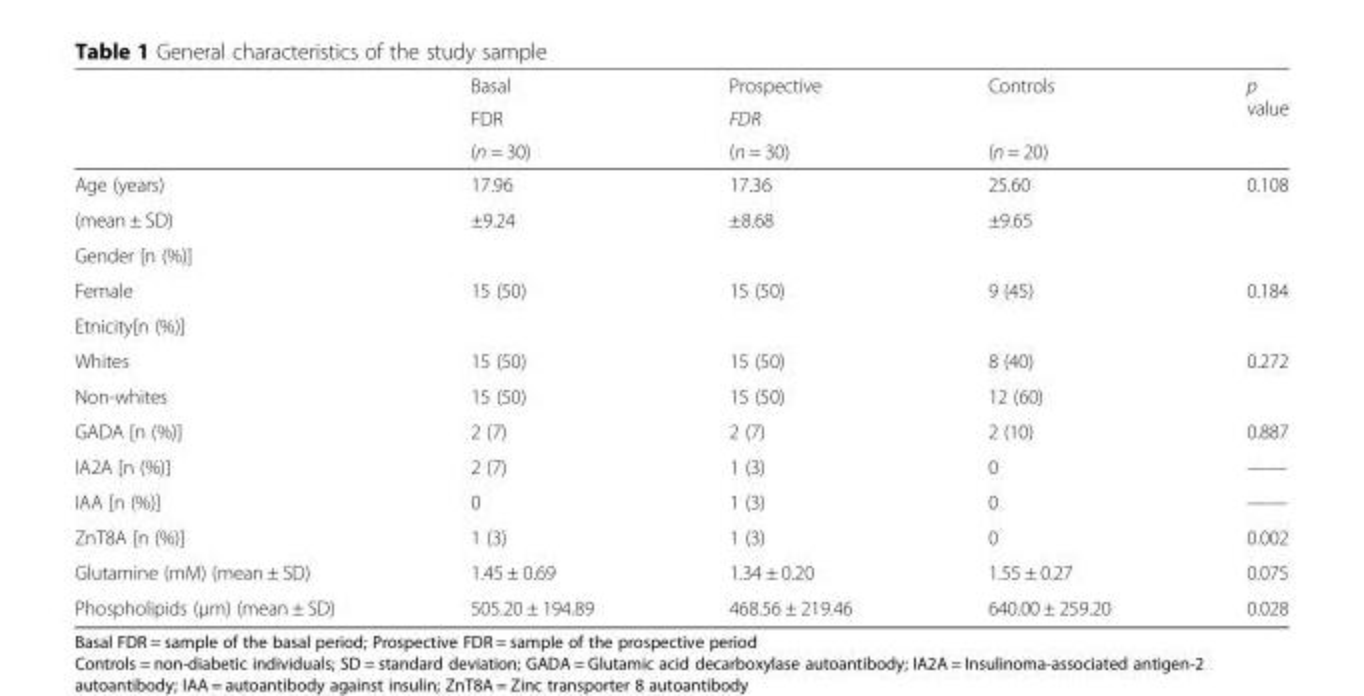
<table><thead><tr><td rowspan="3"></td><td rowspan="3">Basal FDR (n = 30)</td><td rowspan="3">Prospective FDR (n = 30)</td><td rowspan="3">Controls (n = 20)</td><td rowspan="3">p value</td></tr><tr></tr><tr></tr></thead><tbody><tr><td>Age (years)</td><td>17.96</td><td>17.36</td><td>25.60</td><td rowspan="2">0.108</td></tr><tr><td>(mean ± SD)</td><td>±9.24</td><td>±8.68</td><td>±9.65</td></tr><tr><td colspan="5">Gender [n (%)]</td></tr><tr><td>Female</td><td>15 (50)</td><td>15 (50)</td><td>9 (45)</td><td>0.184</td></tr><tr><td colspan="5">Etnicity[n (%)]</td></tr><tr><td>Whites</td><td>15 (50)</td><td>15 (50)</td><td>8 (40)</td><td>0.272</td></tr><tr><td>Non-whites</td><td>15 (50)</td><td>15 (50)</td><td>12 (60)</td><td></td></tr><tr><td>GADA [n (%)]</td><td>2 (7)</td><td>2 (7)</td><td>2 (10)</td><td>0.887</td></tr><tr><td>IA2A [n (%)]</td><td>2 (7)</td><td>1 (3)</td><td>0</td><td>——</td></tr><tr><td>IAA [n (%)]</td><td>0</td><td>1 (3)</td><td>0</td><td>——</td></tr><tr><td>ZnT8A [n (%)]</td><td>1 (3)</td><td>1 (3)</td><td>0</td><td>0.002</td></tr><tr><td>Glutamine (mM) (mean ± SD)</td><td>1.45 ± 0.69</td><td>1.34 ± 0.20</td><td>1.55 ± 0.27</td><td>0.075</td></tr><tr><td>Phospholipids (μm) (mean ± SD)</td><td>505.20 ± 194.89</td><td>468.56 ± 219.46</td><td>640.00 ± 259.20</td><td>0.028</td></tr></tbody></table>